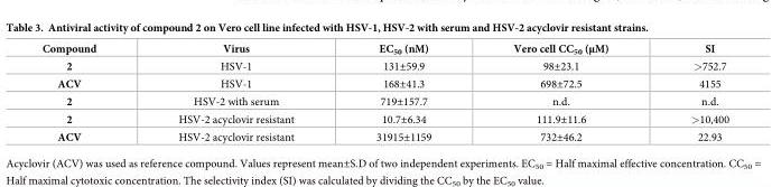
<table><thead><tr><td>Compound</td><td>Virus</td><td>EC<sub>50</sub> (nM)</td><td>Vero cell CC<sub>50</sub> (μM)</td><td>SI</td></tr></thead><tbody><tr><td>2</td><td>HSV-1</td><td>131±59.9</td><td>98±23.1</td><td>&gt;752.7</td></tr><tr><td>ACV</td><td>HSV-1</td><td>168±41.3</td><td>698±72.5</td><td>4155</td></tr><tr><td>2</td><td>HSV-2 with serum</td><td>719±157.7</td><td>n.d.</td><td>n.d.</td></tr><tr><td>2</td><td>HSV-2 acyclovir resistant</td><td>10.7±6.34</td><td>111.9±11.6</td><td>&gt;10,400</td></tr><tr><td>ACV</td><td>HSV-2 acyclovir resistant</td><td>31915±1159</td><td>732±46.2</td><td>22.93</td></tr></tbody></table>